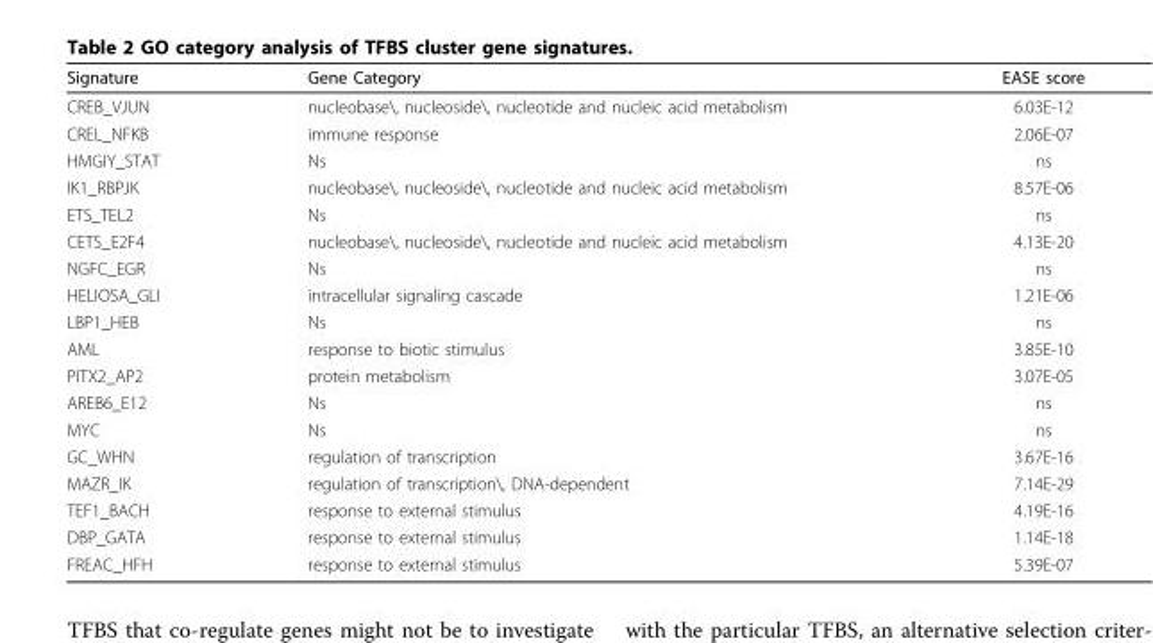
<table><thead><tr><td>Signature</td><td>Gene Category</td><td>EASE score</td></tr></thead><tbody><tr><td>CREB_VJUN</td><td>nucleobase\, nucleoside\, nucleotide and nucleic acid metabolism</td><td>6.03E-12</td></tr><tr><td>CREL_NFKB</td><td>immune response</td><td>2.06E-07</td></tr><tr><td>HMGIY_STAT</td><td>Ns</td><td>ns</td></tr><tr><td>IK1_RBPJK</td><td>nucleobase\, nucleoside\, nucleotide and nucleic acid metabolism</td><td>8.57E-06</td></tr><tr><td>ETS_TEL2</td><td>Ns</td><td>ns</td></tr><tr><td>CETS_E2F4</td><td>nucleobase\, nucleoside\, nucleotide and nucleic acid metabolism</td><td>4.13E-20</td></tr><tr><td>NGFC_EGR</td><td>Ns</td><td>ns</td></tr><tr><td>HELIOSA_GLI</td><td>intracellular signaling cascade</td><td>1.21E-06</td></tr><tr><td>LBP1_HEB</td><td>Ns</td><td>ns</td></tr><tr><td>AML</td><td>response to biotic stimulus</td><td>3.85E-10</td></tr><tr><td>PITX2_AP2</td><td>protein metabolism</td><td>3.07E-05</td></tr><tr><td>AREB6_E12</td><td>Ns</td><td>ns</td></tr><tr><td>MYC</td><td>Ns</td><td>ns</td></tr><tr><td>GC_WHN</td><td>regulation of transcription</td><td>3.67E-16</td></tr><tr><td>MAZR_IK</td><td>regulation of transcription\, DNA-dependent</td><td>7.14E-29</td></tr><tr><td>TEF1_BACH</td><td>response to external stimulus</td><td>4.19E-16</td></tr><tr><td>DBP_GATA</td><td>response to external stimulus</td><td>1.14E-18</td></tr><tr><td>FREAC_HFH</td><td>response to external stimulus</td><td>5.39E-07</td></tr></tbody></table>